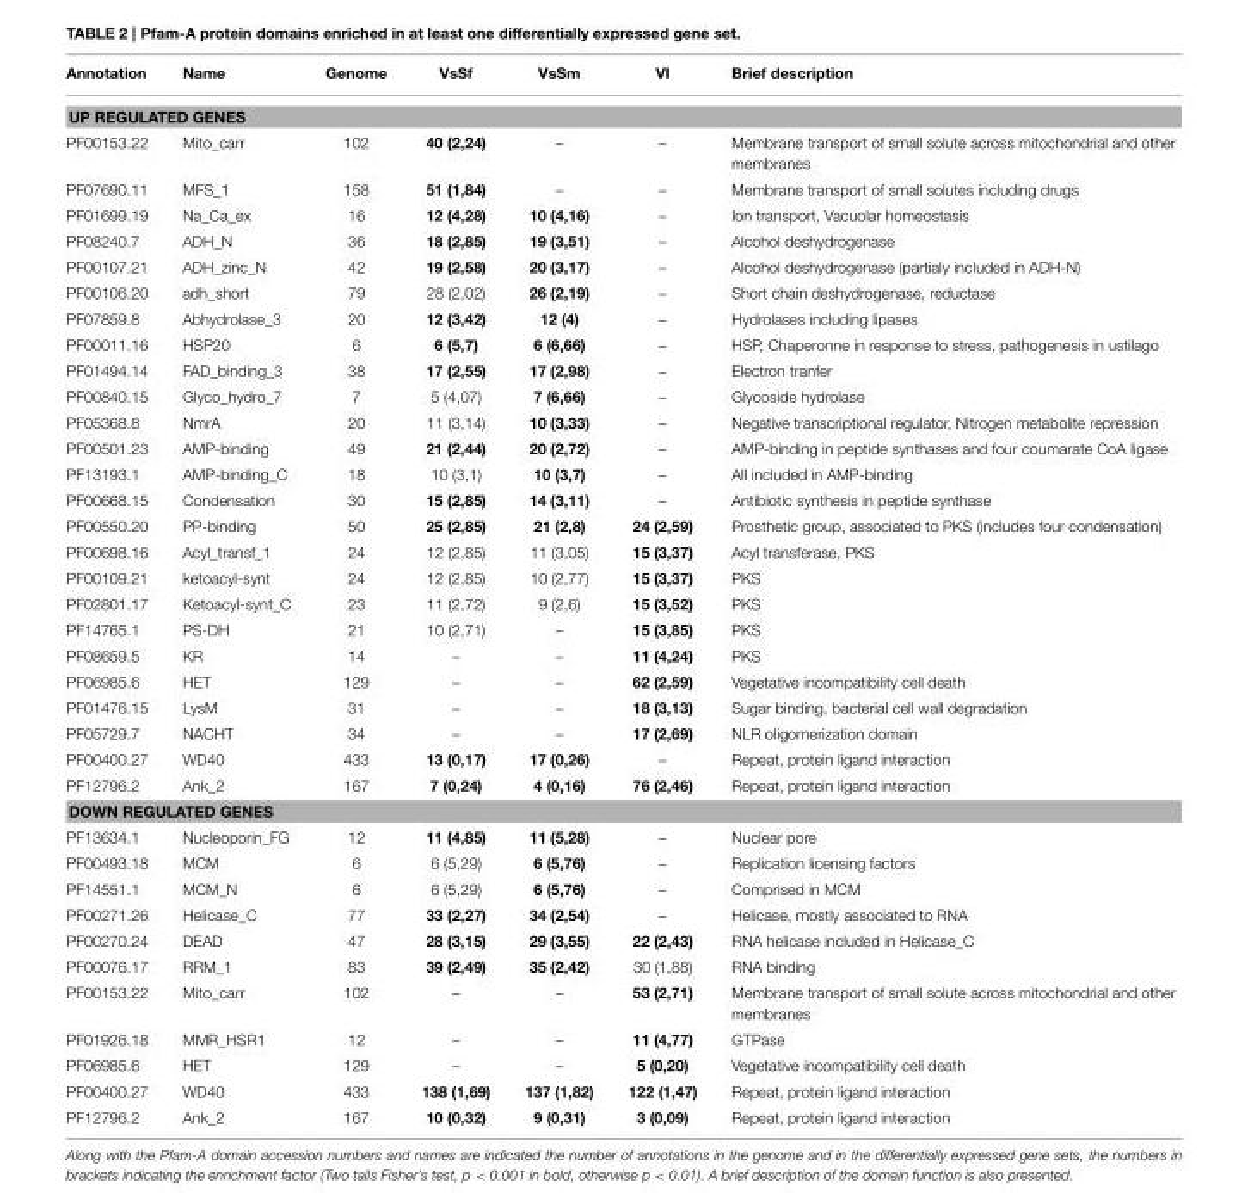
<table><thead><tr><td>Annotation</td><td>Name</td><td>Genome</td><td>VsSf</td><td>VsSm</td><td>VI</td><td>Brief description</td></tr></thead><tbody><tr><td colspan="7">UP REGULATED GENES</td></tr><tr><td>PF00153.22</td><td>Mito_carr</td><td>102</td><td>40 (2,24)</td><td>–</td><td>–</td><td>Membrane transport of small solute across mitochondrial and other membranes</td></tr><tr><td>PF07690.11</td><td>MFS_1</td><td>158</td><td>51 (1,84)</td><td>–</td><td>–</td><td>Membrane transport of small solutes including drugs</td></tr><tr><td>PF01699.19</td><td>Na_Ca_ex</td><td>16</td><td>12 (4,28)</td><td>10 (4,16)</td><td>–</td><td>Ion transport, Vacuolar homeostasis</td></tr><tr><td>PF08240.7</td><td>ADH_N</td><td>36</td><td>18 (2,85)</td><td>19 (3,51)</td><td>–</td><td>Alcohol deshydrogenase</td></tr><tr><td>PF00107.21</td><td>ADH_zinc_N</td><td>42</td><td>19 (2,58)</td><td>20 (3,17)</td><td>–</td><td>Alcohol deshydrogenase (partialy included in ADH-N)</td></tr><tr><td>PF00106.20</td><td>adh_short</td><td>79</td><td>28 (2,02)</td><td>26 (2,19)</td><td>–</td><td>Short chain deshydrogenase, reductase</td></tr><tr><td>PF07859.8</td><td>Abhydrolase_3</td><td>20</td><td>12 (3,42)</td><td>12 (4)</td><td>–</td><td>Hydrolases including lipases</td></tr><tr><td>PF00011.16</td><td>HSP20</td><td>6</td><td>6 (5,7)</td><td>6 (6,66)</td><td>–</td><td>HSP, Chaperonne in response to stress, pathogenesis in ustilago</td></tr><tr><td>PF01494.14</td><td>FAD_binding_3</td><td>38</td><td>17 (2,55)</td><td>17 (2,98)</td><td>–</td><td>Electron tranfer</td></tr><tr><td>PF00840.15</td><td>Glyco_hydro_7</td><td>7</td><td>5 (4,07)</td><td>7 (6,66)</td><td>–</td><td>Glycoside hydrolase</td></tr><tr><td>PF05368.8</td><td>NmrA</td><td>20</td><td>11 (3,14)</td><td>10 (3,33)</td><td>–</td><td>Negative transcriptional regulator, Nitrogen metabolite repression</td></tr><tr><td>PF00501.23</td><td>AMP-binding</td><td>49</td><td>21 (2,44)</td><td>20 (2,72)</td><td>–</td><td>AMP-binding in peptide synthases and four coumarate CoA ligase</td></tr><tr><td>PF13193.1</td><td>AMP-binding_C</td><td>18</td><td>10 (3,1)</td><td>10 (3,7)</td><td>–</td><td>All included in AMP-binding</td></tr><tr><td>PF00668.15</td><td>Condensation</td><td>30</td><td>15 (2,85)</td><td>14 (3,11)</td><td>–</td><td>Antibiotic synthesis in peptide synthase</td></tr><tr><td>PF00550.20</td><td>PP-binding</td><td>50</td><td>25 (2,85)</td><td>21 (2,8)</td><td>24 (2,59)</td><td>Prosthetic group, associated to PKS (includes four condensation)</td></tr><tr><td>PF00698.16</td><td>Acyl_transf_1</td><td>24</td><td>12 (2,85)</td><td>11 (3,05)</td><td>15 (3,37)</td><td>Acyl transferase, PKS</td></tr><tr><td>PF00109.21</td><td>ketoacyl-synt</td><td>24</td><td>12 (2,85)</td><td>10 (2,77)</td><td>15 (3,37)</td><td>PKS</td></tr><tr><td>PF02801.17</td><td>Ketoacyl-synt_C</td><td>23</td><td>11 (2,72)</td><td>9 (2,6)</td><td>15 (3,52)</td><td>PKS</td></tr><tr><td>PF14765.1</td><td>PS-DH</td><td>21</td><td>10 (2,71)</td><td>–</td><td>15 (3,85)</td><td>PKS</td></tr><tr><td>PF08659.5</td><td>KR</td><td>14</td><td>–</td><td>–</td><td>11 (4,24)</td><td>PKS</td></tr><tr><td>PF06985.6</td><td>HET</td><td>129</td><td>–</td><td>–</td><td>62 (2,59)</td><td>Vegetative incompatibility cell death</td></tr><tr><td>PF01476.15</td><td>LysM</td><td>31</td><td>–</td><td>–</td><td>18 (3,13)</td><td>Sugar binding, bacterial cell wall degradation</td></tr><tr><td>PF05729.7</td><td>NACHT</td><td>34</td><td>–</td><td>–</td><td>17 (2,69)</td><td>NLR oligomerization domain</td></tr><tr><td>PF00400.27</td><td>WD40</td><td>433</td><td>13 (0,17)</td><td>17 (0,26)</td><td>–</td><td>Repeat, protein ligand interaction</td></tr><tr><td>PF12796.2</td><td>Ank_2</td><td>167</td><td>7 (0,24)</td><td>4 (0,16)</td><td>76 (2,46)</td><td>Repeat, protein ligand interaction</td></tr><tr><td colspan="7">DOWN REGULATED GENES</td></tr><tr><td>PF13634.1</td><td>Nucleoporin_FG</td><td>12</td><td>11 (4,85)</td><td>11 (5,28)</td><td>–</td><td>Nuclear pore</td></tr><tr><td>PF00493.18</td><td>MCM</td><td>6</td><td>6 (5,29)</td><td>6 (5,76)</td><td>–</td><td>Replication licensing factors</td></tr><tr><td>PF14551.1</td><td>MCM_N</td><td>6</td><td>6 (5,29)</td><td>6 (5,76)</td><td>–</td><td>Comprised in MCM</td></tr><tr><td>PF00271.26</td><td>Helicase_C</td><td>77</td><td>33 (2,27)</td><td>34 (2,54)</td><td>–</td><td>Helicase, mostly associated to RNA</td></tr><tr><td>PF00270.24</td><td>DEAD</td><td>47</td><td>28 (3,15)</td><td>29 (3,55)</td><td>22 (2,43)</td><td>RNA helicase included in Helicase_C</td></tr><tr><td>PF00076.17</td><td>RRM_1</td><td>83</td><td>39 (2,49)</td><td>35 (2,42)</td><td>30 (1,88)</td><td>RNA binding</td></tr><tr><td>PF00153.22</td><td>Mito_carr</td><td>102</td><td>–</td><td>–</td><td>53 (2,71)</td><td>Membrane transport of small solute across mitochondrial and other membranes</td></tr><tr><td>PF01926.18</td><td>MMR_HSR1</td><td>12</td><td>–</td><td>–</td><td>11 (4,77)</td><td>GTPase</td></tr><tr><td>PF06985.6</td><td>HET</td><td>129</td><td>–</td><td>–</td><td>5 (0,20)</td><td>Vegetative incompatibility cell death</td></tr><tr><td>PF00400.27</td><td>WD40</td><td>433</td><td>138 (1,69)</td><td>137 (1,82)</td><td>122 (1,47)</td><td>Repeat, protein ligand interaction</td></tr><tr><td>PF12796.2</td><td>Ank_2</td><td>167</td><td>10 (0,32)</td><td>9 (0,31)</td><td>3 (0,09)</td><td>Repeat, protein ligand interaction</td></tr></tbody></table>